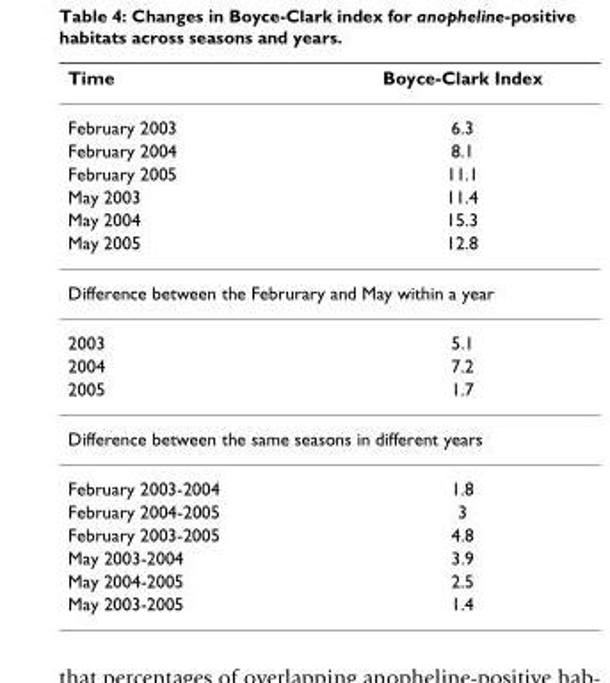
<table><thead><tr><td>Time</td><td>Boyce-Clark Index</td></tr></thead><tbody><tr><td>February 2003</td><td>6.3</td></tr><tr><td>February 2004</td><td>8.1</td></tr><tr><td>February 2005</td><td>11.1</td></tr><tr><td>May 2003</td><td>11.4</td></tr><tr><td>May 2004</td><td>15.3</td></tr><tr><td>May 2005</td><td>12.8</td></tr><tr><td colspan="2">Difference between the Februrary and May within a year</td></tr><tr><td>2003</td><td>5.1</td></tr><tr><td>2004</td><td>7.2</td></tr><tr><td>2005</td><td>1.7</td></tr><tr><td colspan="2">Difference between the same seasons in different years</td></tr><tr><td>February 2003-2004</td><td>1.8</td></tr><tr><td>February 2004-2005</td><td>3</td></tr><tr><td>February 2003-2005</td><td>4.8</td></tr><tr><td>May 2003-2004</td><td>3.9</td></tr><tr><td>May 2004-2005</td><td>2.5</td></tr><tr><td>May 2003-2005</td><td>1.4</td></tr></tbody></table>